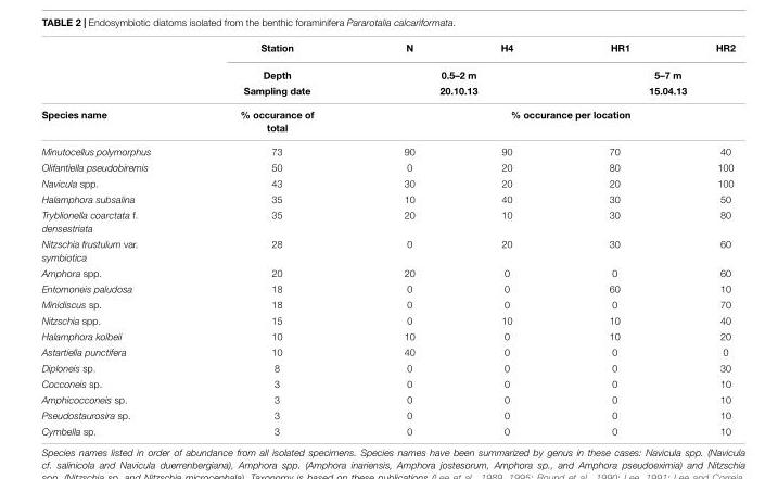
<table><thead><tr><td rowspan="4">Species name</td><td rowspan="4">Station Depth Sampling date % occurance of total</td><td>N</td><td>H4</td><td>HR1</td><td>HR2</td></tr><tr><td rowspan="2" colspan="2">0.5–2 m 20.10.13</td><td rowspan="2" colspan="2">5–7 m 15.04.13</td></tr><tr></tr><tr><td colspan="4">% occurance per location</td></tr></thead><tbody><tr><td>Minutocellus polymorphus</td><td>73</td><td>90</td><td>90</td><td>70</td><td>40</td></tr><tr><td>Olifantiella pseudobiremis</td><td>50</td><td>0</td><td>20</td><td>80</td><td>100</td></tr><tr><td>Navicula spp.</td><td>43</td><td>30</td><td>20</td><td>20</td><td>100</td></tr><tr><td>Halamphora subsalina</td><td>35</td><td>10</td><td>40</td><td>30</td><td>50</td></tr><tr><td>Tryblionella coarctata f. densestriata</td><td>35</td><td>20</td><td>10</td><td>30</td><td>80</td></tr><tr><td>Nitzschia frustulum var. symbiotica</td><td>28</td><td>0</td><td>20</td><td>30</td><td>60</td></tr><tr><td>Amphora spp.</td><td>20</td><td>20</td><td>0</td><td>0</td><td>60</td></tr><tr><td>Entomoneis paludosa</td><td>18</td><td>0</td><td>0</td><td>60</td><td>10</td></tr><tr><td>Minidiscus sp.</td><td>18</td><td>0</td><td>0</td><td>0</td><td>70</td></tr><tr><td>Nitzschia spp.</td><td>15</td><td>0</td><td>10</td><td>10</td><td>40</td></tr><tr><td>Halamphora kolbeii</td><td>10</td><td>10</td><td>0</td><td>10</td><td>20</td></tr><tr><td>Astartiella punctifera</td><td>10</td><td>40</td><td>0</td><td>0</td><td>0</td></tr><tr><td>Diploneis sp.</td><td>8</td><td>0</td><td>0</td><td>0</td><td>30</td></tr><tr><td>Cocconeis sp.</td><td>3</td><td>0</td><td>0</td><td>0</td><td>10</td></tr><tr><td>Amphicocconeis sp.</td><td>3</td><td>0</td><td>0</td><td>0</td><td>10</td></tr><tr><td>Pseudostaurosira sp.</td><td>3</td><td>0</td><td>0</td><td>0</td><td>10</td></tr><tr><td>Cymbella sp.</td><td>3</td><td>0</td><td>0</td><td>0</td><td>10</td></tr></tbody></table>